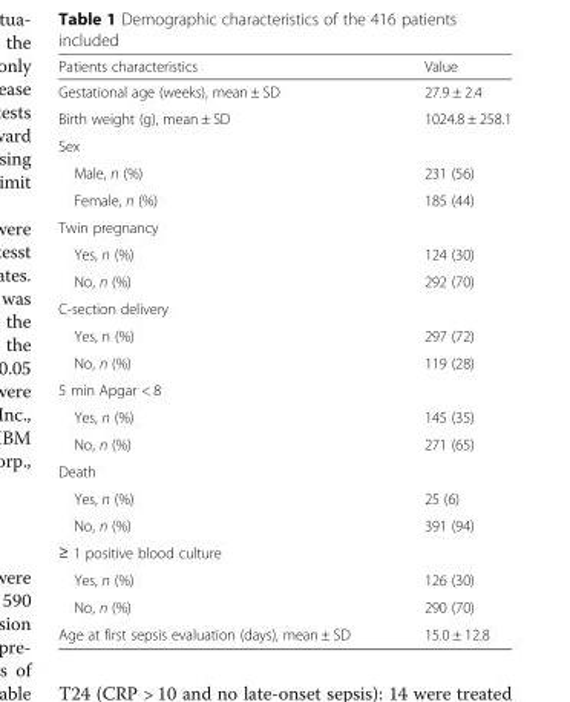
<table><thead><tr><td>Patients characteristics</td><td>Value</td></tr></thead><tbody><tr><td>Gestational age (weeks), mean ± SD</td><td>27.9 ± 2.4</td></tr><tr><td>Birth weight (g), mean ± SD</td><td>1024.8 ± 258.1</td></tr><tr><td colspan="2">Sex</td></tr><tr><td>Male, n (%)</td><td>231 (56)</td></tr><tr><td>Female, n (%)</td><td>185 (44)</td></tr><tr><td colspan="2">Twin pregnancy</td></tr><tr><td>Yes, n (%)</td><td>124 (30)</td></tr><tr><td>No, n (%)</td><td>292 (70)</td></tr><tr><td colspan="2">C-section delivery</td></tr><tr><td>Yes, n (%)</td><td>297 (72)</td></tr><tr><td>No, n (%)</td><td>119 (28)</td></tr><tr><td colspan="2">5 min Apgar &lt; 8</td></tr><tr><td>Yes, n (%)</td><td>145 (35)</td></tr><tr><td>No, n (%)</td><td>271 (65)</td></tr><tr><td colspan="2">Death</td></tr><tr><td>Yes, n (%)</td><td>25 (6)</td></tr><tr><td>No, n (%)</td><td>391 (94)</td></tr><tr><td colspan="2">≥ 1 positive blood culture</td></tr><tr><td>Yes, n (%)</td><td>126 (30)</td></tr><tr><td>No, n (%)</td><td>290 (70)</td></tr><tr><td>Age at first sepsis evaluation (days), mean ± SD</td><td>15.0 ± 12.8</td></tr></tbody></table>